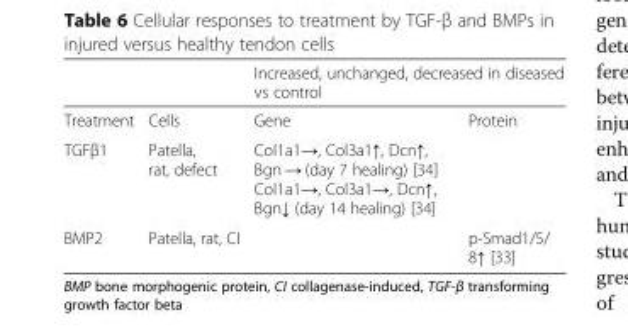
<table><thead><tr><td rowspan="2">Treatment</td><td rowspan="2">Cells</td><td colspan="2">Increased, unchanged, decreased in diseased vs control</td></tr><tr><td>Gene</td><td>Protein</td></tr></thead><tbody><tr><td>TGFβ1</td><td>Patella, rat, defect</td><td>Col1a1→, Col3a1↑, Dcn↑, Bgn → (day 7 healing) [34] Col1a1→, Col3a1→, Dcn↑, Bgn↓ (day 14 healing) [34]</td><td></td></tr><tr><td>BMP2</td><td>Patella, rat, CI</td><td></td><td>p-Smad1/5/ 8↑ [33]</td></tr></tbody></table>